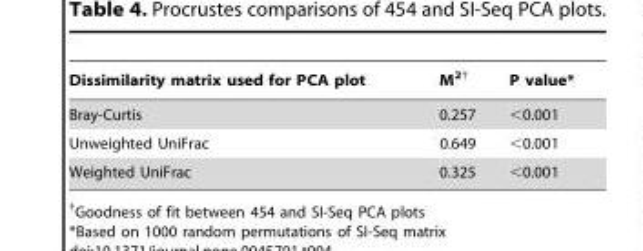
<table><thead><tr><td>Dissimilarity matrix used for PCA plot</td><td>M<sup>2</sup>†</td><td>P value*</td></tr></thead><tbody><tr><td>Bray-Curtis</td><td>0.257</td><td>&lt;0.001</td></tr><tr><td>Unweighted UniFrac</td><td>0.649</td><td>&lt;0.001</td></tr><tr><td>Weighted UniFrac</td><td>0.325</td><td>&lt;0.001</td></tr></tbody></table>